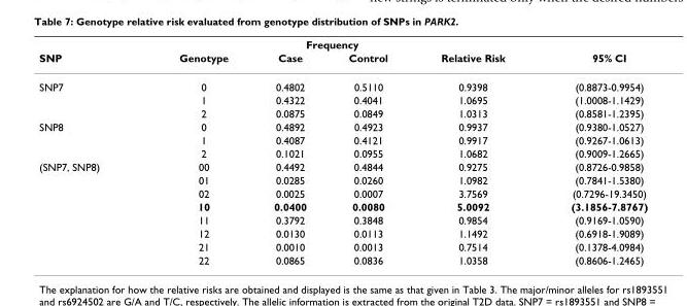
<table><thead><tr><td rowspan="2">SNP</td><td rowspan="2">Genotype</td><td colspan="2">Frequency</td><td rowspan="2">Relative Risk</td><td rowspan="2">95% CI</td></tr><tr><td>Case</td><td>Control</td></tr></thead><tbody><tr><td rowspan="3">SNP7</td><td>0</td><td>0.4802</td><td>0.5110</td><td>0.9398</td><td>(0.8873-0.9954)</td></tr><tr><td>1</td><td>0.4322</td><td>0.4041</td><td>1.0695</td><td>(1.0008-1.1429)</td></tr><tr><td>2</td><td>0.0875</td><td>0.0849</td><td>1.0313</td><td>(0.8581-1.2395)</td></tr><tr><td rowspan="3">SNP8</td><td>0</td><td>0.4892</td><td>0.4923</td><td>0.9937</td><td>(0.9380-1.0527)</td></tr><tr><td>1</td><td>0.4087</td><td>0.4121</td><td>0.9917</td><td>(0.9267-1.0613)</td></tr><tr><td>2</td><td>0.1021</td><td>0.0955</td><td>1.0682</td><td>(0.9009-1.2665)</td></tr><tr><td rowspan="8">(SNP7, SNP8)</td><td>00</td><td>0.4492</td><td>0.4844</td><td>0.9275</td><td>(0.8726-0.9858)</td></tr><tr><td>01</td><td>0.0285</td><td>0.0260</td><td>1.0982</td><td>(0.7841-1.5380)</td></tr><tr><td>02</td><td>0.0025</td><td>0.0007</td><td>3.7569</td><td>(0.7296-19.3450)</td></tr><tr><td>10</td><td>0.0400</td><td>0.0080</td><td>5.0092</td><td>(3.1856-7.8767)</td></tr><tr><td>11</td><td>0.3792</td><td>0.3848</td><td>0.9854</td><td>(0.9169-1.0590)</td></tr><tr><td>12</td><td>0.0130</td><td>0.0113</td><td>1.1492</td><td>(0.6918-1.9089)</td></tr><tr><td>21</td><td>0.0010</td><td>0.0013</td><td>0.7514</td><td>(0.1378-4.0984)</td></tr><tr><td>22</td><td>0.0865</td><td>0.0836</td><td>1.0358</td><td>(0.8606-1.2465)</td></tr></tbody></table>